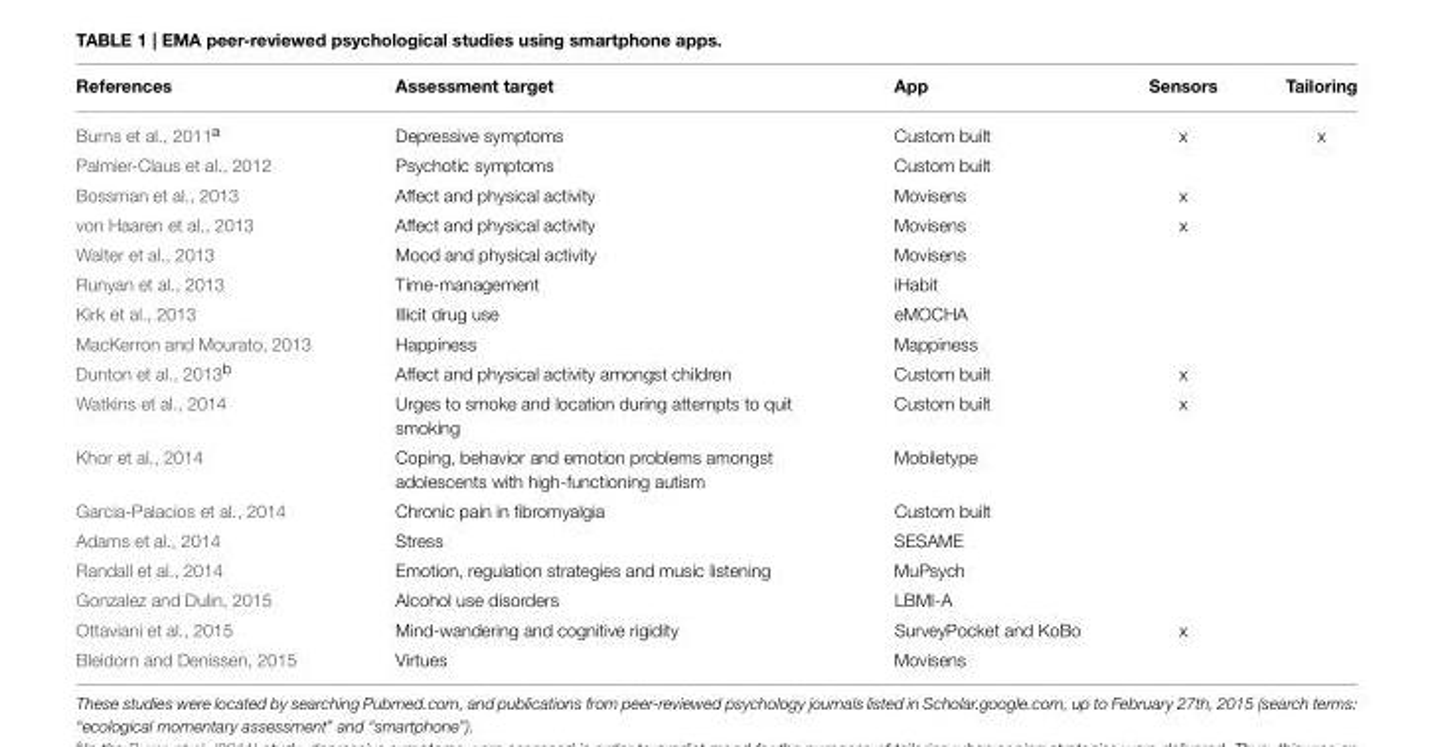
<table><thead><tr><td>References</td><td>Assessment target</td><td>App</td><td>Sensors</td><td>Tailoring</td></tr></thead><tbody><tr><td>Burns et al., 2011<sup>a</sup></td><td>Depressive symptoms</td><td>Custom built</td><td>x</td><td>x</td></tr><tr><td>Palmier-Claus et al., 2012</td><td>Psychotic symptoms</td><td>Custom built</td><td></td><td></td></tr><tr><td>Bossman et al., 2013</td><td>Affect and physical activity</td><td>Movisens</td><td>x</td><td></td></tr><tr><td>von Haaren et al., 2013</td><td>Affect and physical activity</td><td>Movisens</td><td>x</td><td></td></tr><tr><td>Walter et al., 2013</td><td>Mood and physical activity</td><td>Movisens</td><td></td><td></td></tr><tr><td>Runyan et al., 2013</td><td>Time-management</td><td>iHabit</td><td></td><td></td></tr><tr><td>Kirk et al., 2013</td><td>Illicit drug use</td><td>eMOCHA</td><td></td><td></td></tr><tr><td>MacKerron and Mourato, 2013</td><td>Happiness</td><td>Mappiness</td><td></td><td></td></tr><tr><td>Dunton et al., 2013<sup>b</sup></td><td>Affect and physical activity amongst children</td><td>Custom built</td><td>x</td><td></td></tr><tr><td>Watkins et al., 2014</td><td>Urges to smoke and location during attempts to quit smoking</td><td>Custom built</td><td>x</td><td></td></tr><tr><td>Khor et al., 2014</td><td>Coping, behavior and emotion problems amongst adolescents with high-functioning autism</td><td>Mobiletype</td><td></td><td></td></tr><tr><td>Garcia-Palacios et al., 2014</td><td>Chronic pain in fibromyalgia</td><td>Custom built</td><td></td><td></td></tr><tr><td>Adams et al., 2014</td><td>Stress</td><td>SESAME</td><td></td><td></td></tr><tr><td>Randall et al., 2014</td><td>Emotion, regulation strategies and music listening</td><td>MuPsych</td><td></td><td></td></tr><tr><td>Gonzalez and Dulin, 2015</td><td>Alcohol use disorders</td><td>LBMI-A</td><td></td><td></td></tr><tr><td>Ottaviani et al., 2015</td><td>Mind-wandering and cognitive rigidity</td><td>SurveyPocket and KoBo</td><td>x</td><td></td></tr><tr><td>Bleidorn and Denissen, 2015</td><td>Virtues</td><td>Movisens</td><td></td><td></td></tr></tbody></table>